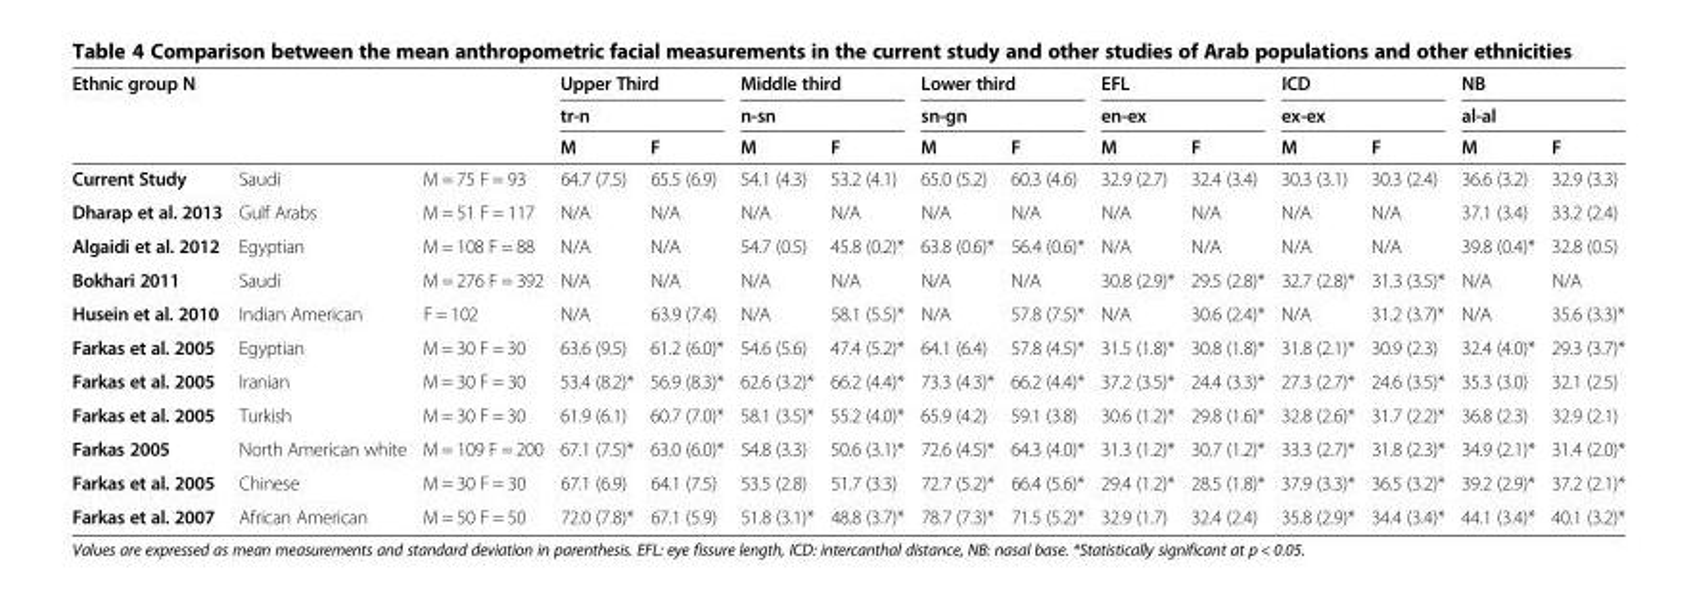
<table><thead><tr><td rowspan="3" colspan="3">Ethnic group N</td><td rowspan="2" colspan="2">Upper Third tr-n</td><td rowspan="2" colspan="2">Middle third n-sn</td><td rowspan="2" colspan="2">Lower third sn-gn</td><td rowspan="2" colspan="2">EFL en-ex</td><td rowspan="2" colspan="2">ICD ex-ex</td><td rowspan="2" colspan="2">NB al-al</td></tr><tr></tr><tr><td rowspan="2">M 64.7 (7.5)</td><td rowspan="2">F 65.5 (6.9)</td><td rowspan="2">M 54.1 (4.3)</td><td rowspan="2">F 53.2 (4.1)</td><td rowspan="2">M 65.0 (5.2)</td><td rowspan="2">F 60.3 (4.6)</td><td rowspan="2">M 32.9 (2.7)</td><td rowspan="2">F 32.4 (3.4)</td><td rowspan="2">M 30.3 (3.1)</td><td rowspan="2">F 30.3 (2.4)</td><td rowspan="2">M 36.6 (3.2)</td><td rowspan="2">F 32.9 (3.3)</td></tr><tr><td>Current Study</td><td>Saudi</td><td>M = 75 F = 93</td></tr></thead><tbody><tr><td>Dharap et al. 2013</td><td>Gulf Arabs</td><td>M = 51 F = 117</td><td>N/A</td><td>N/A</td><td>N/A</td><td>N/A</td><td>N/A</td><td>N/A</td><td>N/A</td><td>N/A</td><td>N/A</td><td>N/A</td><td>37.1 (3.4)</td><td>33.2 (2.4)</td></tr><tr><td>Algaidi et al. 2012</td><td>Egyptian</td><td>M = 108 F = 88</td><td>N/A</td><td>N/A</td><td>54.7 (0.5)</td><td>45.8 (0.2)*</td><td>63.8 (0.6)*</td><td>56.4 (0.6)*</td><td>N/A</td><td>N/A</td><td>N/A</td><td>N/A</td><td>39.8 (0.4)*</td><td>32.8 (0.5)</td></tr><tr><td>Bokhari 2011</td><td>Saudi</td><td>M = 276 F = 392</td><td>N/A</td><td>N/A</td><td>N/A</td><td>N/A</td><td>N/A</td><td>N/A</td><td>30.8 (2.9)*</td><td>29.5 (2.8)*</td><td>32.7 (2.8)*</td><td>31.3 (3.5)*</td><td>N/A</td><td>N/A</td></tr><tr><td>Husein et al. 2010</td><td>Indian American</td><td>F = 102</td><td>N/A</td><td>63.9 (7.4)</td><td>N/A</td><td>58.1 (5.5)*</td><td>N/A</td><td>57.8 (7.5)*</td><td>N/A</td><td>30.6 (2.4)*</td><td>N/A</td><td>31.2 (3.7)*</td><td>N/A</td><td>35.6 (3.3)*</td></tr><tr><td>Farkas et al. 2005</td><td>Egyptian</td><td>M = 30 F = 30</td><td>63.6 (9.5)</td><td>61.2 (6.0)*</td><td>54.6 (5.6)</td><td>47.4 (5.2)*</td><td>64.1 (6.4)</td><td>57.8 (4.5)*</td><td>31.5 (1.8)*</td><td>30.8 (1.8)*</td><td>31.8 (2.1)*</td><td>30.9 (2.3)</td><td>32.4 (4.0)*</td><td>29.3 (3.7)*</td></tr><tr><td>Farkas et al. 2005</td><td>Iranian</td><td>M = 30 F = 30</td><td>53.4 (8.2)*</td><td>56.9 (8.3)*</td><td>62.6 (3.2)*</td><td>66.2 (4.4)*</td><td>73.3 (4.3)*</td><td>66.2 (4.4)*</td><td>37.2 (3.5)*</td><td>24.4 (3.3)*</td><td>27.3 (2.7)*</td><td>24.6 (3.5)*</td><td>35.3 (3.0)</td><td>32.1 (2.5)</td></tr><tr><td>Farkas et al. 2005</td><td>Turkish</td><td>M = 30 F = 30</td><td>61.9 (6.1)</td><td>60.7 (7.0)*</td><td>58.1 (3.5)*</td><td>55.2 (4.0)*</td><td>65.9 (4.2)</td><td>59.1 (3.8)</td><td>30.6 (1.2)*</td><td>29.8 (1.6)*</td><td>32.8 (2.6)*</td><td>31.7 (2.2)*</td><td>36.8 (2.3)</td><td>32.9 (2.1)</td></tr><tr><td>Farkas 2005</td><td>North American white</td><td>M = 109 F = 200</td><td>67.1 (7.5)*</td><td>63.0 (6.0)*</td><td>54.8 (3.3)</td><td>50.6 (3.1)*</td><td>72.6 (4.5)*</td><td>64.3 (4.0)*</td><td>31.3 (1.2)*</td><td>30.7 (1.2)*</td><td>33.3 (2.7)*</td><td>31.8 (2.3)*</td><td>34.9 (2.1)*</td><td>31.4 (2.0)*</td></tr><tr><td>Farkas et al. 2005</td><td>Chinese</td><td>M = 30 F = 30</td><td>67.1 (6.9)</td><td>64.1 (7.5)</td><td>53.5 (2.8)</td><td>51.7 (3.3)</td><td>72.7 (5.2)*</td><td>66.4 (5.6)*</td><td>29.4 (1.2)*</td><td>28.5 (1.8)*</td><td>37.9 (3.3)*</td><td>36.5 (3.2)*</td><td>39.2 (2.9)*</td><td>37.2 (2.1)*</td></tr><tr><td>Farkas et al. 2007</td><td>African American</td><td>M = 50 F = 50</td><td>72.0 (7.8)*</td><td>67.1 (5.9)</td><td>51.8 (3.1)*</td><td>48.8 (3.7)*</td><td>78.7 (7.3)*</td><td>71.5 (5.2)*</td><td>32.9 (1.7)</td><td>32.4 (2.4)</td><td>35.8 (2.9)*</td><td>34.4 (3.4)*</td><td>44.1 (3.4)*</td><td>40.1 (3.2)*</td></tr></tbody></table>